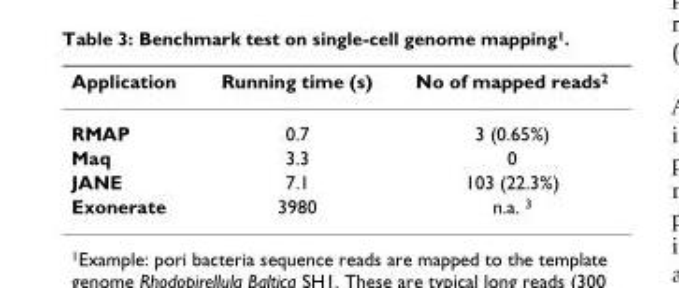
<table><thead><tr><td>Application</td><td>Running time (s)</td><td>No of mapped reads<sup>2</sup></td></tr></thead><tbody><tr><td>RMAP</td><td>0.7</td><td>3 (0.65%)</td></tr><tr><td>Maq</td><td>3.3</td><td>0</td></tr><tr><td>JANE</td><td>7.1</td><td>103 (22.3%)</td></tr><tr><td>Exonerate</td><td>3980</td><td>n.a. <sup>3</sup></td></tr></tbody></table>